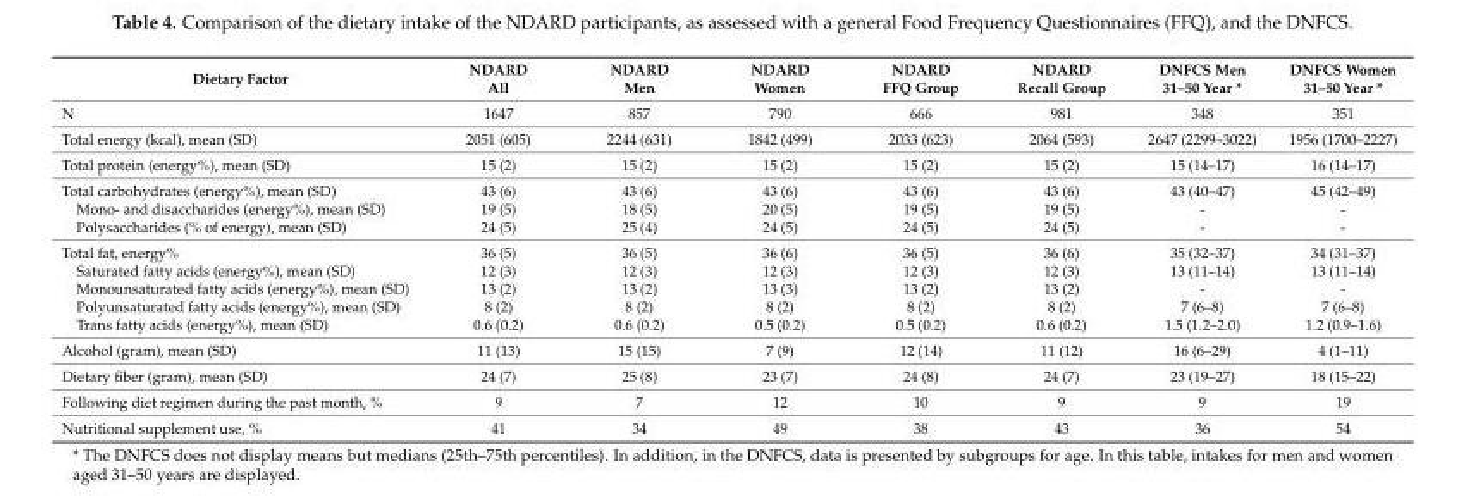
<table><thead><tr><td>Dietary Factor</td><td>NDARD All</td><td>NDARD Men</td><td>NDARD Women</td><td>NDARD FFQ Group</td><td>NDARD Recall Group</td><td>DNFCS Men 31–50 Year *</td><td>DNFCS Women 31–50 Year *</td></tr></thead><tbody><tr><td>N</td><td>1647</td><td>857</td><td>790</td><td>666</td><td>981</td><td>348</td><td>351</td></tr><tr><td>Total energy (kcal), mean (SD)</td><td>2051 (605)</td><td>2244 (631)</td><td>1842 (499)</td><td>2033 (623)</td><td>2064 (593)</td><td>2647 (2299–3022)</td><td>1956 (1700–2227)</td></tr><tr><td>Total protein (energy%), mean (SD)</td><td>15 (2)</td><td>15 (2)</td><td>15 (2)</td><td>15 (2)</td><td>15 (2)</td><td>15 (14–17)</td><td>16 (14–17)</td></tr><tr><td>Total carbohydrates (energy%), mean (SD)</td><td>43 (6)</td><td>43 (6)</td><td>43 (6)</td><td>43 (6)</td><td>43 (6)</td><td>43 (40–47)</td><td>45 (42–49)</td></tr><tr><td>Mono- and disaccharides (energy%), mean (SD)</td><td>19 (5)</td><td>18 (5)</td><td>20 (5)</td><td>19 (5)</td><td>19 (5)</td><td>-</td><td>-</td></tr><tr><td>Polysaccharides (% of energy), mean (SD)</td><td>24 (5)</td><td>25 (4)</td><td>24 (5)</td><td>24 (5)</td><td>24 (5)</td><td>-</td><td>-</td></tr><tr><td>Total fat, energy%</td><td>36 (5)</td><td>36 (5)</td><td>36 (6)</td><td>36 (5)</td><td>36 (6)</td><td>35 (32–37)</td><td>34 (31–37)</td></tr><tr><td>Saturated fatty acids (energy%), mean (SD)</td><td>12 (3)</td><td>12 (3)</td><td>12 (3)</td><td>12 (3)</td><td>12 (3)</td><td>13 (11–14)</td><td>13 (11–14)</td></tr><tr><td>Monounsaturated fatty acids (energy%), mean (SD)</td><td>13 (2)</td><td>13 (2)</td><td>13 (3)</td><td>13 (2)</td><td>13 (2)</td><td>-</td><td>-</td></tr><tr><td>Polyunsaturated fatty acids (energy%), mean (SD)</td><td>8 (2)</td><td>8 (2)</td><td>8 (2)</td><td>8 (2)</td><td>8 (2)</td><td>7 (6–8)</td><td>7 (6–8)</td></tr><tr><td>Trans fatty acids (energy%), mean (SD)</td><td>0.6 (0.2)</td><td>0.6 (0.2)</td><td>0.5 (0.2)</td><td>0.5 (0.2)</td><td>0.6 (0.2)</td><td>1.5 (1.2–2.0)</td><td>1.2 (0.9–1.6)</td></tr><tr><td>Alcohol (gram), mean (SD)</td><td>11 (13)</td><td>15 (15)</td><td>7 (9)</td><td>12 (14)</td><td>11 (12)</td><td>16 (6–29)</td><td>4 (1–11)</td></tr><tr><td>Dietary fiber (gram), mean (SD)</td><td>24 (7)</td><td>25 (8)</td><td>23 (7)</td><td>24 (8)</td><td>24 (7)</td><td>23 (19–27)</td><td>18 (15–22)</td></tr><tr><td>Following diet regimen during the past month, %</td><td>9</td><td>7</td><td>12</td><td>10</td><td>9</td><td>9</td><td>19</td></tr><tr><td>Nutritional supplement use, %</td><td>41</td><td>34</td><td>49</td><td>38</td><td>43</td><td>36</td><td>54</td></tr></tbody></table>